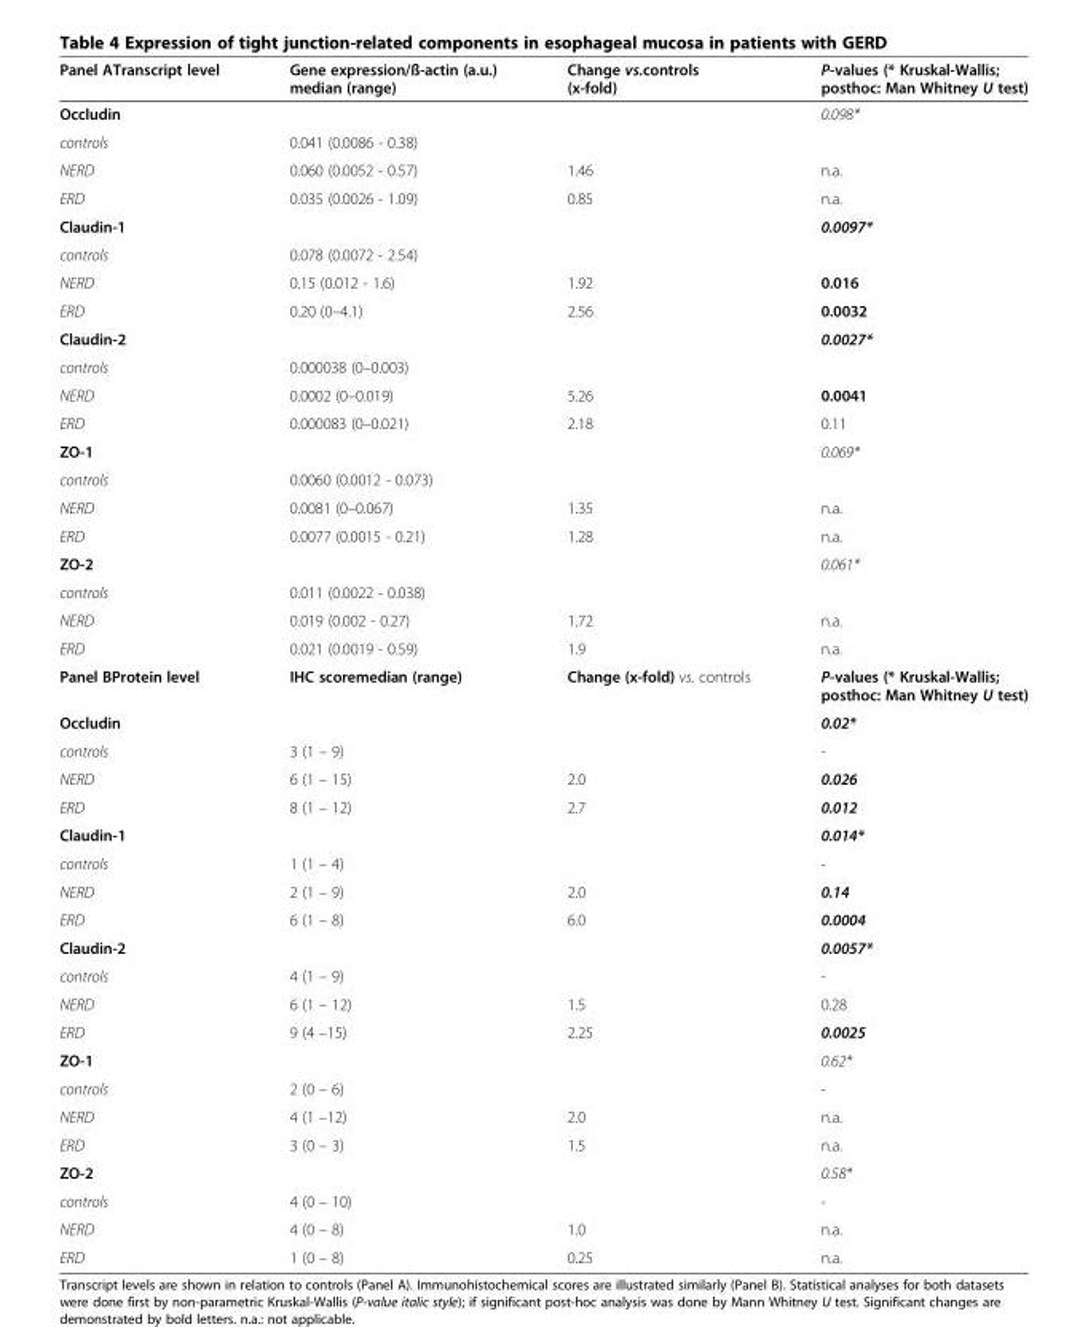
<table><thead><tr><td>Panel ATranscript level</td><td>Gene expression/ß-actin (a.u.) median (range)</td><td>Change vs.controls (x-fold)</td><td>P-values (* Kruskal-Wallis; posthoc: Man Whitney U test)</td></tr></thead><tbody><tr><td>Occludin</td><td></td><td></td><td>0.098*</td></tr><tr><td>controls</td><td>0.041 (0.0086 - 0.38)</td><td></td><td></td></tr><tr><td>NERD</td><td>0.060 (0.0052 - 0.57)</td><td>1.46</td><td>n.a.</td></tr><tr><td>ERD</td><td>0.035 (0.0026 - 1.09)</td><td>0.85</td><td>n.a.</td></tr><tr><td>Claudin-1</td><td></td><td></td><td>0.0097*</td></tr><tr><td>controls</td><td>0.078 (0.0072 - 2.54)</td><td></td><td></td></tr><tr><td>NERD</td><td>0.15 (0.012 - 1.6)</td><td>1.92</td><td>0.016</td></tr><tr><td>ERD</td><td>0.20 (0–4.1)</td><td>2.56</td><td>0.0032</td></tr><tr><td>Claudin-2</td><td></td><td></td><td>0.0027*</td></tr><tr><td>controls</td><td>0.000038 (0–0.003)</td><td></td><td></td></tr><tr><td>NERD</td><td>0.0002 (0–0.019)</td><td>5.26</td><td>0.0041</td></tr><tr><td>ERD</td><td>0.000083 (0–0.021)</td><td>2.18</td><td>0.11</td></tr><tr><td>ZO-1</td><td></td><td></td><td>0.069*</td></tr><tr><td>controls</td><td>0.0060 (0.0012 - 0.073)</td><td></td><td></td></tr><tr><td>NERD</td><td>0.0081 (0–0.067)</td><td>1.35</td><td>n.a.</td></tr><tr><td>ERD</td><td>0.0077 (0.0015 - 0.21)</td><td>1.28</td><td>n.a.</td></tr><tr><td>ZO-2</td><td></td><td></td><td>0.061*</td></tr><tr><td>controls</td><td>0.011 (0.0022 - 0.038)</td><td></td><td></td></tr><tr><td>NERD</td><td>0.019 (0.002 - 0.27)</td><td>1.72</td><td>n.a.</td></tr><tr><td>ERD</td><td>0.021 (0.0019 - 0.59)</td><td>1.9</td><td>n.a.</td></tr><tr><td>Panel BProtein level</td><td>IHC scoremedian (range)</td><td>Change (x-fold) vs. controls</td><td>P-values (* Kruskal-Wallis; posthoc: Man Whitney U test)</td></tr><tr><td>Occludin</td><td></td><td></td><td>0.02*</td></tr><tr><td>controls</td><td>3 (1 – 9)</td><td></td><td>-</td></tr><tr><td>NERD</td><td>6 (1 – 15)</td><td>2.0</td><td>0.026</td></tr><tr><td>ERD</td><td>8 (1 – 12)</td><td>2.7</td><td>0.012</td></tr><tr><td>Claudin-1</td><td></td><td></td><td>0.014*</td></tr><tr><td>controls</td><td>1 (1 – 4)</td><td></td><td>-</td></tr><tr><td>NERD</td><td>2 (1 – 9)</td><td>2.0</td><td>0.14</td></tr><tr><td>ERD</td><td>6 (1 – 8)</td><td>6.0</td><td>0.0004</td></tr><tr><td>Claudin-2</td><td></td><td></td><td>0.0057*</td></tr><tr><td>controls</td><td>4 (1 – 9)</td><td></td><td>-</td></tr><tr><td>NERD</td><td>6 (1 – 12)</td><td>1.5</td><td>0.28</td></tr><tr><td>ERD</td><td>9 (4 –15)</td><td>2.25</td><td>0.0025</td></tr><tr><td>ZO-1</td><td></td><td></td><td>0.62*</td></tr><tr><td>controls</td><td>2 (0 – 6)</td><td></td><td>-</td></tr><tr><td>NERD</td><td>4 (1 –12)</td><td>2.0</td><td>n.a.</td></tr><tr><td>ERD</td><td>3 (0 – 3)</td><td>1.5</td><td>n.a.</td></tr><tr><td>ZO-2</td><td></td><td></td><td>0.58*</td></tr><tr><td>controls</td><td>4 (0 – 10)</td><td></td><td>-</td></tr><tr><td>NERD</td><td>4 (0 – 8)</td><td>1.0</td><td>n.a.</td></tr><tr><td>ERD</td><td>1 (0 – 8)</td><td>0.25</td><td>n.a.</td></tr></tbody></table>